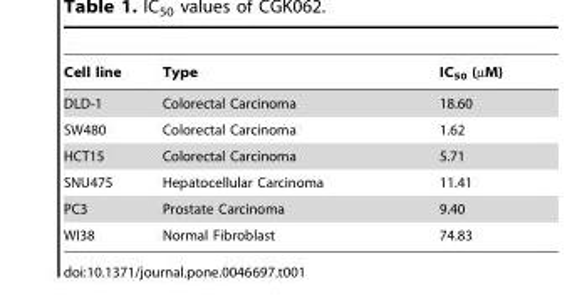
<table><thead><tr><td>Cell line</td><td>Type</td><td>IC<sub>50</sub> (µM)</td></tr></thead><tbody><tr><td>DLD-1</td><td>Colorectal Carcinoma</td><td>18.60</td></tr><tr><td>SW480</td><td>Colorectal Carcinoma</td><td>1.62</td></tr><tr><td>HCT15</td><td>Colorectal Carcinoma</td><td>5.71</td></tr><tr><td>SNU475</td><td>Hepatocellular Carcinoma</td><td>11.41</td></tr><tr><td>PC3</td><td>Prostate Carcinoma</td><td>9.40</td></tr><tr><td>WI38</td><td>Normal Fibroblast</td><td>74.83</td></tr></tbody></table>